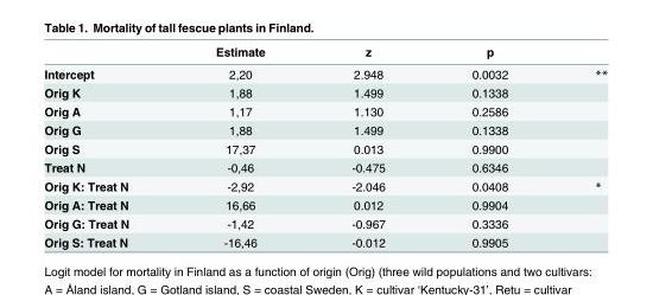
<table><thead><tr><td></td><td>Estimate</td><td>z</td><td>p</td><td></td></tr></thead><tbody><tr><td>Intercept</td><td>2,20</td><td>2.948</td><td>0.0032</td><td>**</td></tr><tr><td>Orig K</td><td>1,88</td><td>1.499</td><td>0.1338</td><td></td></tr><tr><td>Orig A</td><td>1,17</td><td>1.130</td><td>0.2586</td><td></td></tr><tr><td>Orig G</td><td>1,88</td><td>1.499</td><td>0.1338</td><td></td></tr><tr><td>Orig S</td><td>17,37</td><td>0.013</td><td>0.9900</td><td></td></tr><tr><td>Treat N</td><td>-0,46</td><td>-0.475</td><td>0.6346</td><td></td></tr><tr><td>Orig K: Treat N</td><td>-2,92</td><td>-2.046</td><td>0.0408</td><td>*</td></tr><tr><td>Orig A: Treat N</td><td>16,66</td><td>0.012</td><td>0.9904</td><td></td></tr><tr><td>Orig G: Treat N</td><td>-1,42</td><td>-0.967</td><td>0.3336</td><td></td></tr><tr><td>Orig S: Treat N</td><td>-16,46</td><td>-0.012</td><td>0.9905</td><td></td></tr></tbody></table>